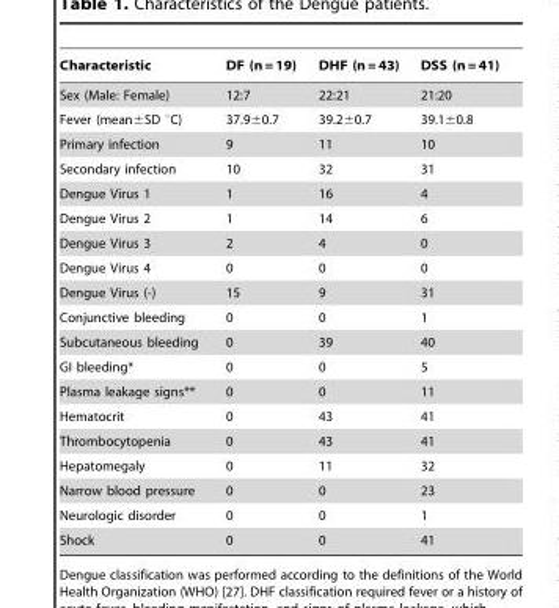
<table><thead><tr><td>Characteristic</td><td>DF (n = 19)</td><td>DHF (n = 43)</td><td>DSS (n = 41)</td></tr></thead><tbody><tr><td>Sex (Male: Female)</td><td>12:7</td><td>22:21</td><td>21:20</td></tr><tr><td>Fever (mean±SD °C)</td><td>37.9±0.7</td><td>39.2±0.7</td><td>39.1±0.8</td></tr><tr><td>Primary infection</td><td>9</td><td>11</td><td>10</td></tr><tr><td>Secondary infection</td><td>10</td><td>32</td><td>31</td></tr><tr><td>Dengue Virus 1</td><td>1</td><td>16</td><td>4</td></tr><tr><td>Dengue Virus 2</td><td>1</td><td>14</td><td>6</td></tr><tr><td>Dengue Virus 3</td><td>2</td><td>4</td><td>0</td></tr><tr><td>Dengue Virus 4</td><td>0</td><td>0</td><td>0</td></tr><tr><td>Dengue Virus (-)</td><td>15</td><td>9</td><td>31</td></tr><tr><td>Conjunctive bleeding</td><td>0</td><td>0</td><td>1</td></tr><tr><td>Subcutaneous bleeding</td><td>0</td><td>39</td><td>40</td></tr><tr><td>GI bleeding*</td><td>0</td><td>0</td><td>5</td></tr><tr><td>Plasma leakage signs**</td><td>0</td><td>0</td><td>11</td></tr><tr><td>Hematocrit</td><td>0</td><td>43</td><td>41</td></tr><tr><td>Thrombocytopenia</td><td>0</td><td>43</td><td>41</td></tr><tr><td>Hepatomegaly</td><td>0</td><td>11</td><td>32</td></tr><tr><td>Narrow blood pressure</td><td>0</td><td>0</td><td>23</td></tr><tr><td>Neurologic disorder</td><td>0</td><td>0</td><td>1</td></tr><tr><td>Shock</td><td>0</td><td>0</td><td>41</td></tr></tbody></table>